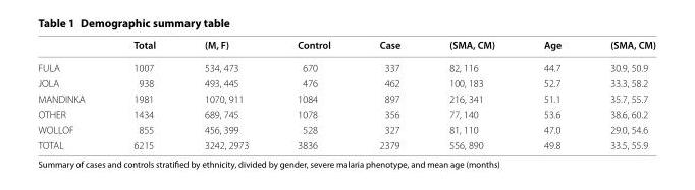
<table><thead><tr><td></td><td>Total</td><td>(M, F)</td><td>Control</td><td>Case</td><td>(SMA, CM)</td><td>Age</td><td>(SMA, CM)</td></tr></thead><tbody><tr><td>FULA</td><td>1007</td><td>534, 473</td><td>670</td><td>337</td><td>82, 116</td><td>44.7</td><td>30.9, 50.9</td></tr><tr><td>JOLA</td><td>938</td><td>493, 445</td><td>476</td><td>462</td><td>100, 183</td><td>52.7</td><td>33.3, 58.2</td></tr><tr><td>MANDINKA</td><td>1981</td><td>1070, 911</td><td>1084</td><td>897</td><td>216, 341</td><td>51.1</td><td>35.7, 55.7</td></tr><tr><td>OTHER</td><td>1434</td><td>689, 745</td><td>1078</td><td>356</td><td>77, 140</td><td>53.6</td><td>38.6, 60.2</td></tr><tr><td>WOLLOF</td><td>855</td><td>456, 399</td><td>528</td><td>327</td><td>81, 110</td><td>47.0</td><td>29.0, 54.6</td></tr><tr><td>TOTAL</td><td>6215</td><td>3242, 2973</td><td>3836</td><td>2379</td><td>556, 890</td><td>49.8</td><td>33.5, 55.9</td></tr></tbody></table>